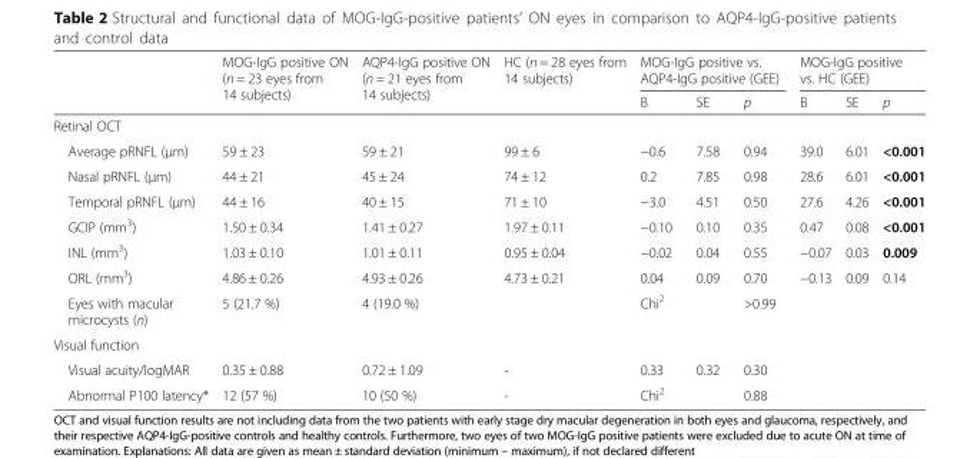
<table><thead><tr><td rowspan="2"></td><td rowspan="2">MOG-IgG positive ON (n = 23 eyes from 14 subjects)</td><td rowspan="2">AQP4-IgG positive ON (n = 21 eyes from 14 subjects)</td><td rowspan="2">HC (n = 28 eyes from 14 subjects)</td><td colspan="3">MOG-IgG positive vs. AQP4-IgG positive (GEE)</td><td colspan="3">MOG-IgG positive vs. HC (GEE)</td></tr><tr><td>B</td><td>SE</td><td>p</td><td>B</td><td>SE</td><td>p</td></tr></thead><tbody><tr><td colspan="10">Retinal OCT</td></tr><tr><td>Average pRNFL (μm)</td><td>59 ± 23</td><td>59 ± 21</td><td>99 ± 6</td><td>−0.6</td><td>7.58</td><td>0.94</td><td>39.0</td><td>6.01</td><td>&lt;0.001</td></tr><tr><td>Nasal pRNFL (μm)</td><td>44 ± 21</td><td>45 ± 24</td><td>74 ± 12</td><td>0.2</td><td>7.85</td><td>0.98</td><td>28.6</td><td>6.01</td><td>&lt;0.001</td></tr><tr><td>Temporal pRNFL (μm)</td><td>44 ± 16</td><td>40 ± 15</td><td>71 ± 10</td><td>−3.0</td><td>4.51</td><td>0.50</td><td>27.6</td><td>4.26</td><td>&lt;0.001</td></tr><tr><td>GCIP (mm<sup>3</sup>)</td><td>1.50 ± 0.34</td><td>1.41 ± 0.27</td><td>1.97 ± 0.11</td><td>−0.10</td><td>0.10</td><td>0.35</td><td>0.47</td><td>0.08</td><td>&lt;0.001</td></tr><tr><td>INL (mm<sup>3</sup>)</td><td>1.03 ± 0.10</td><td>1.01 ± 0.11</td><td>0.95 ± 0.04</td><td>−0.02</td><td>0.04</td><td>0.55</td><td>−0.07</td><td>0.03</td><td>0.009</td></tr><tr><td>ORL (mm<sup>3</sup>)</td><td>4.86 ± 0.26</td><td>4.93 ± 0.26</td><td>4.73 ± 0.21</td><td>0.04</td><td>0.09</td><td>0.70</td><td>−0.13</td><td>0.09</td><td>0.14</td></tr><tr><td>Eyes with macular microcysts (n)</td><td>5 (21.7 %)</td><td>4 (19.0 %)</td><td></td><td colspan="2">Chi<sup>2</sup></td><td>&gt;0.99</td><td></td><td></td><td></td></tr><tr><td colspan="10">Visual function</td></tr><tr><td>Visual acuity/logMAR</td><td>0.35 ± 0.88</td><td>0.72 ± 1.09</td><td>-</td><td>0.33</td><td>0.32</td><td>0.30</td><td></td><td></td><td></td></tr><tr><td>Abnormal P100 latency*</td><td>12 (57 %)</td><td>10 (50 %)</td><td>-</td><td colspan="2">Chi<sup>2</sup></td><td>0.88</td><td></td><td></td><td></td></tr></tbody></table>